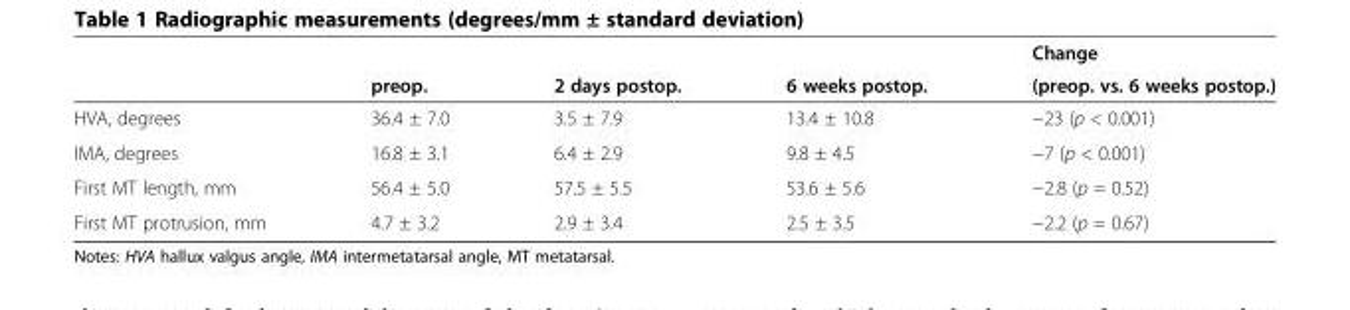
<table><thead><tr><td></td><td>preop.</td><td>2 days postop.</td><td>6 weeks postop.</td><td>(preop. vs. 6 weeks postop.)</td></tr></thead><tbody><tr><td>HVA, degrees</td><td>36.4 ± 7.0</td><td>3.5 ± 7.9</td><td>13.4 ± 10.8</td><td>−23 (p &lt; 0.001)</td></tr><tr><td>IMA, degrees</td><td>16.8 ± 3.1</td><td>6.4 ± 2.9</td><td>9.8 ± 4.5</td><td>−7 (p &lt; 0.001)</td></tr><tr><td>First MT length, mm</td><td>56.4 ± 5.0</td><td>57.5 ± 5.5</td><td>53.6 ± 5.6</td><td>−2.8 (p = 0.52)</td></tr><tr><td>First MT protrusion, mm</td><td>4.7 ± 3.2</td><td>2.9 ± 3.4</td><td>2.5 ± 3.5</td><td>−2.2 (p = 0.67)</td></tr></tbody></table>